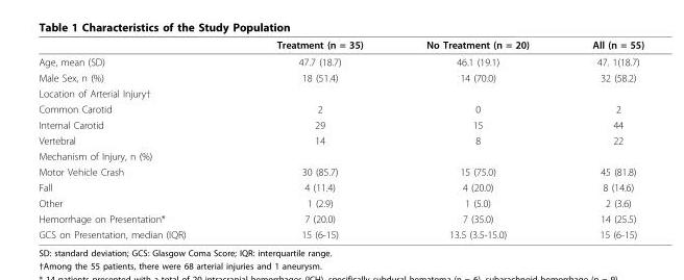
<table><thead><tr><td></td><td>Treatment (n = 35)</td><td>No Treatment (n = 20)</td><td>All (n = 55)</td></tr></thead><tbody><tr><td>Age, mean (SD)</td><td>47.7 (18.7)</td><td>46.1 (19.1)</td><td>47. 1(18.7)</td></tr><tr><td>Male Sex, n (%)</td><td>18 (51.4)</td><td>14 (70.0)</td><td>32 (58.2)</td></tr><tr><td colspan="4">Location of Arterial Injury†</td></tr><tr><td>Common Carotid</td><td>2</td><td>0</td><td>2</td></tr><tr><td>Internal Carotid</td><td>29</td><td>15</td><td>44</td></tr><tr><td>Vertebral</td><td>14</td><td>8</td><td>22</td></tr><tr><td colspan="4">Mechanism of Injury, n (%)</td></tr><tr><td>Motor Vehicle Crash</td><td>30 (85.7)</td><td>15 (75.0)</td><td>45 (81.8)</td></tr><tr><td>Fall</td><td>4 (11.4)</td><td>4 (20.0)</td><td>8 (14.6)</td></tr><tr><td>Other</td><td>1 (2.9)</td><td>1 (5.0)</td><td>2 (3.6)</td></tr><tr><td>Hemorrhage on Presentation*</td><td>7 (20.0)</td><td>7 (35.0)</td><td>14 (25.5)</td></tr><tr><td>GCS on Presentation, median (IQR)</td><td>15 (6-15)</td><td>13.5 (3.5-15.0)</td><td>15 (6-15)</td></tr></tbody></table>